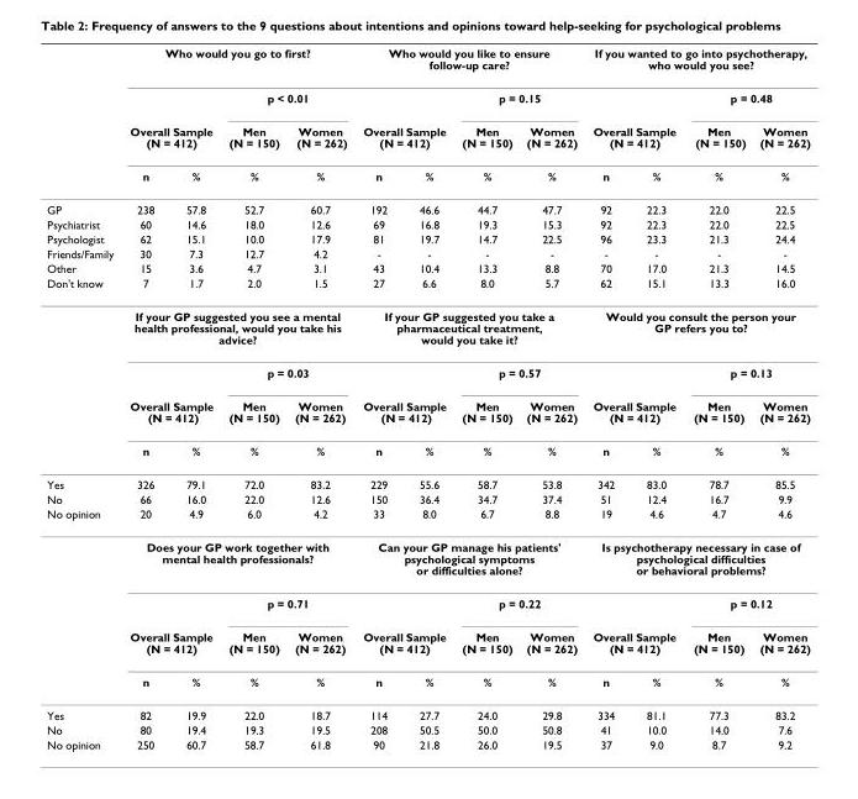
<table><thead><tr><td rowspan="4"></td><td colspan="4">Who would you go to first?</td><td colspan="4">Who would you like to ensure follow-up care?</td><td colspan="4">If you wanted to go into psychotherapy, who would you see?</td></tr><tr><td></td><td></td><td colspan="2">p &lt; 0.01</td><td></td><td></td><td colspan="2">p = 0.15</td><td></td><td></td><td colspan="2">p = 0.48</td></tr><tr><td colspan="2">Overall Sample (N = 412)</td><td rowspan="2">Men (N = 150) %</td><td rowspan="2">Women (N = 262) %</td><td colspan="2">Overall Sample (N = 412)</td><td rowspan="2">Men (N = 150) %</td><td rowspan="2">Women (N = 262) %</td><td colspan="2">Overall Sample (N = 412)</td><td rowspan="2">Men (N = 150) %</td><td rowspan="2">Women (N = 262) %</td></tr><tr><td>n</td><td>%</td><td>n</td><td>%</td><td>n</td><td>%</td></tr></thead><tbody><tr><td>GP</td><td>238</td><td>57.8</td><td>52.7</td><td>60.7</td><td>192</td><td>46.6</td><td>44.7</td><td>47.7</td><td>92</td><td>22.3</td><td>22.0</td><td>22.5</td></tr><tr><td>Psychiatrist</td><td>60</td><td>14.6</td><td>18.0</td><td>12.6</td><td>69</td><td>16.8</td><td>19.3</td><td>15.3</td><td>92</td><td>22.3</td><td>22.0</td><td>22.5</td></tr><tr><td>Psychologist</td><td>62</td><td>15.1</td><td>10.0</td><td>17.9</td><td>81</td><td>19.7</td><td>14.7</td><td>22.5</td><td>96</td><td>23.3</td><td>21.3</td><td>24.4</td></tr><tr><td>Friends/Family</td><td>30</td><td>7.3</td><td>12.7</td><td>4.2</td><td>-</td><td>-</td><td>-</td><td>-</td><td>-</td><td>-</td><td>-</td><td>-</td></tr><tr><td>Other</td><td>15</td><td>3.6</td><td>4.7</td><td>3.1</td><td>43</td><td>10.4</td><td>13.3</td><td>8.8</td><td>70</td><td>17.0</td><td>21.3</td><td>14.5</td></tr><tr><td rowspan="5">Don&#x27;t know</td><td>7</td><td>1.7</td><td>2.0</td><td>1.5</td><td>27</td><td>6.6</td><td>8.0</td><td>5.7</td><td>62</td><td>15.1</td><td>13.3</td><td>16.0</td></tr><tr><td colspan="4">If your GP suggested you see a mental health professional, would you take his advice?</td><td colspan="4">If your GP suggested you take a pharmaceutical treatment, would you take it?</td><td colspan="4">Would you consult the person your GP refers you to?</td></tr><tr><td></td><td></td><td colspan="2">p = 0.03</td><td></td><td></td><td colspan="2">p = 0.57</td><td></td><td></td><td colspan="2">p = 0.13</td></tr><tr><td colspan="2">Overall Sample (N = 412)</td><td>Men (N = 150)</td><td>Women (N = 262)</td><td colspan="2">Overall Sample (N = 412)</td><td>Men (N = 150)</td><td>Women (N = 262)</td><td colspan="2">Overall Sample (N = 412)</td><td>Men (N = 150)</td><td>Women (N = 262)</td></tr><tr><td>n</td><td>%</td><td>%</td><td>%</td><td>n</td><td>%</td><td>%</td><td>%</td><td>n</td><td>%</td><td>%</td><td>%</td></tr><tr><td>Yes</td><td>326</td><td>79.1</td><td>72.0</td><td>83.2</td><td>229</td><td>55.6</td><td>58.7</td><td>53.8</td><td>342</td><td>83.0</td><td>78.7</td><td>85.5</td></tr><tr><td>No</td><td>66</td><td>16.0</td><td>22.0</td><td>12.6</td><td>150</td><td>36.4</td><td>34.7</td><td>37.4</td><td>51</td><td>12.4</td><td>16.7</td><td>9.9</td></tr><tr><td rowspan="5">No opinion</td><td>20</td><td>4.9</td><td>6.0</td><td>4.2</td><td>33</td><td>8.0</td><td>6.7</td><td>8.8</td><td>19</td><td>4.6</td><td>4.7</td><td>4.6</td></tr><tr><td colspan="4">Does your GP work together with mental health professionals?</td><td colspan="4">Can your GP manage his patients&#x27; psychological symptoms or difficulties alone?</td><td colspan="4">Is psychotherapy necessary in case of psychological difficulties or behavioral problems?</td></tr><tr><td></td><td></td><td colspan="2">p = 0.71</td><td></td><td></td><td colspan="2">p = 0.22</td><td></td><td></td><td colspan="2">p = 0.12</td></tr><tr><td colspan="2">Overall Sample (N = 412)</td><td>Men (N = 150)</td><td>Women (N = 262)</td><td colspan="2">Overall Sample (N = 412)</td><td>Men (N = 150)</td><td>Women (N = 262)</td><td colspan="2">Overall Sample (N = 412)</td><td>Men (N = 150)</td><td>Women (N = 262)</td></tr><tr><td>n</td><td>%</td><td>%</td><td>%</td><td>n</td><td>%</td><td>%</td><td>%</td><td>n</td><td>%</td><td>%</td><td>%</td></tr><tr><td>Yes</td><td>82</td><td>19.9</td><td>22.0</td><td>18.7</td><td>114</td><td>27.7</td><td>24.0</td><td>29.8</td><td>334</td><td>81.1</td><td>77.3</td><td>83.2</td></tr><tr><td>No</td><td>80</td><td>19.4</td><td>19.3</td><td>19.5</td><td>208</td><td>50.5</td><td>50.0</td><td>50.8</td><td>41</td><td>10.0</td><td>14.0</td><td>7.6</td></tr><tr><td>No opinion</td><td>250</td><td>60.7</td><td>58.7</td><td>61.8</td><td>90</td><td>21.8</td><td>26.0</td><td>19.5</td><td>37</td><td>9.0</td><td>8.7</td><td>9.2</td></tr></tbody></table>